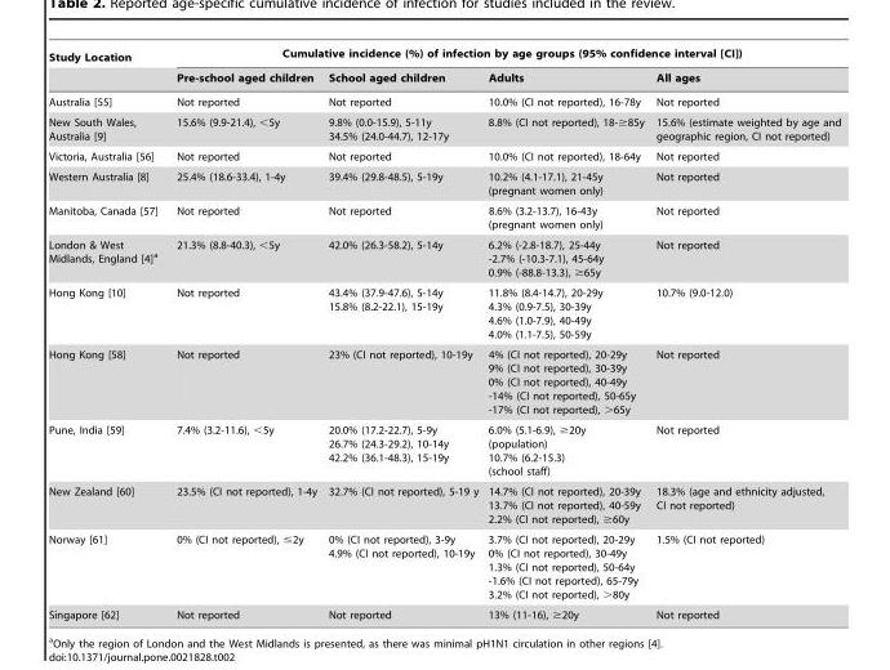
<table><thead><tr><td rowspan="2">Study Location</td><td colspan="4">Cumulative incidence (%) of infection by age groups (95% confidence interval [CI])</td></tr><tr><td>Pre-school aged children</td><td>School aged children</td><td>Adults</td><td>All ages</td></tr></thead><tbody><tr><td>Australia [55]</td><td>Not reported</td><td>Not reported</td><td>10.0% (CI not reported), 16-78y</td><td>Not reported</td></tr><tr><td>New South Wales, Australia [9]</td><td>15.6% (9.9-21.4), &lt;5y</td><td>9.8% (0.0-15.9), 5-11y 34.5% (24.0-44.7), 12-17y</td><td>8.8% (CI not reported), 18-≥85y</td><td>15.6% (estimate weighted by age and geographic region, CI not reported)</td></tr><tr><td>Victoria, Australia [56]</td><td>Not reported</td><td>Not reported</td><td>10.0% (CI not reported), 18-64y</td><td>Not reported</td></tr><tr><td>Western Australia [8]</td><td>25.4% (18.6-33.4), 1-4y</td><td>39.4% (29.8-48.5), 5-19y</td><td>10.2% (4.1-17.1), 21-45y (pregnant women only)</td><td>Not reported</td></tr><tr><td>Manitoba, Canada [57]</td><td>Not reported</td><td>Not reported</td><td>8.6% (3.2-13.7), 16-43y (pregnant women only)</td><td>Not reported</td></tr><tr><td>London &amp; West Midlands, England [4]a</td><td>21.3% (8.8-40.3), &lt;5y</td><td>42.0% (26.3-58.2), 5-14y</td><td>6.2% (-2.8-18.7), 25-44y -2.7% (-10.3-7.1), 45-64y 0.9% (-88.8-13.3), ≥65y</td><td>Not reported</td></tr><tr><td>Hong Kong [10]</td><td>Not reported</td><td>43.4% (37.9-47.6), 5-14y 15.8% (8.2-22.1), 15-19y</td><td>11.8% (8.4-14.7), 20-29y 4.3% (0.9-7.5), 30-39y 4.6% (1.0-7.9), 40-49y 4.0% (1.1-7.5), 50-59y</td><td>10.7% (9.0-12.0)</td></tr><tr><td>Hong Kong [58]</td><td>Not reported</td><td>23% (CI not reported), 10-19y</td><td>4% (CI not reported), 20-29y 9% (CI not reported), 30-39y 0% (CI not reported), 40-49y -14% (CI not reported), 50-65y -17% (CI not reported), &gt;65y</td><td>Not reported</td></tr><tr><td>Pune, India [59]</td><td>7.4% (3.2-11.6), &lt;5y</td><td>20.0% (17.2-22.7), 5-9y 26.7% (24.3-29.2), 10-14y 42.2% (36.1-48.3), 15-19y</td><td>6.0% (5.1-6.9), ≥20y (population) 10.7% (6.2-15.3) (school staff)</td><td>Not reported</td></tr><tr><td>New Zealand [60]</td><td>23.5% (CI not reported), 1-4y</td><td>32.7% (CI not reported), 5-19 y</td><td>14.7% (CI not reported), 20-39y 13.7% (CI not reported), 40-59y 2.2% (CI not reported), ≥60y</td><td>18.3% (age and ethnicity adjusted, CI not reported)</td></tr><tr><td>Norway [61]</td><td>0% (CI not reported), ≤2y</td><td>0% (CI not reported), 3-9y 4.9% (CI not reported), 10-19y</td><td>3.7% (CI not reported), 20-29y 0% (CI not reported), 30-49y 1.3% (CI not reported), 50-64y -1.6% (CI not reported), 65-79y 3.2% (CI not reported), &gt;80y</td><td>1.5% (CI not reported)</td></tr><tr><td>Singapore [62]</td><td>Not reported</td><td>Not reported</td><td>13% (11-16), ≥20y</td><td>Not reported</td></tr></tbody></table>